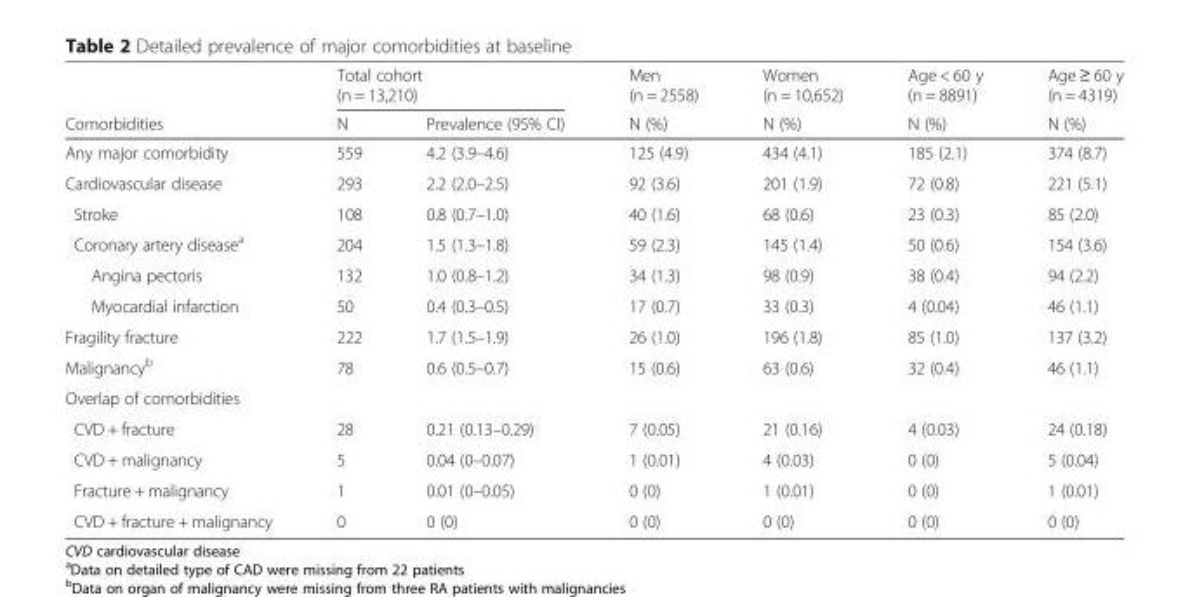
<table><thead><tr><td rowspan="2">Comorbidities</td><td colspan="2">Total cohort (n = 13,210)</td><td rowspan="2">Men (n = 2558) N (%)</td><td rowspan="2">Women (n = 10,652) N (%)</td><td rowspan="2">Age &lt; 60 y (n = 8891) N (%)</td><td rowspan="2">Age ≥ 60 y (n = 4319) N (%)</td></tr><tr><td>N</td><td>Prevalence (95% CI)</td></tr></thead><tbody><tr><td>Any major comorbidity</td><td>559</td><td>4.2 (3.9–4.6)</td><td>125 (4.9)</td><td>434 (4.1)</td><td>185 (2.1)</td><td>374 (8.7)</td></tr><tr><td>Cardiovascular disease</td><td>293</td><td>2.2 (2.0–2.5)</td><td>92 (3.6)</td><td>201 (1.9)</td><td>72 (0.8)</td><td>221 (5.1)</td></tr><tr><td>Stroke</td><td>108</td><td>0.8 (0.7–1.0)</td><td>40 (1.6)</td><td>68 (0.6)</td><td>23 (0.3)</td><td>85 (2.0)</td></tr><tr><td>Coronary artery disease<sup>a</sup></td><td>204</td><td>1.5 (1.3–1.8)</td><td>59 (2.3)</td><td>145 (1.4)</td><td>50 (0.6)</td><td>154 (3.6)</td></tr><tr><td>Angina pectoris</td><td>132</td><td>1.0 (0.8–1.2)</td><td>34 (1.3)</td><td>98 (0.9)</td><td>38 (0.4)</td><td>94 (2.2)</td></tr><tr><td>Myocardial infarction</td><td>50</td><td>0.4 (0.3–0.5)</td><td>17 (0.7)</td><td>33 (0.3)</td><td>4 (0.04)</td><td>46 (1.1)</td></tr><tr><td>Fragility fracture</td><td>222</td><td>1.7 (1.5–1.9)</td><td>26 (1.0)</td><td>196 (1.8)</td><td>85 (1.0)</td><td>137 (3.2)</td></tr><tr><td>Malignancy<sup>b</sup></td><td>78</td><td>0.6 (0.5–0.7)</td><td>15 (0.6)</td><td>63 (0.6)</td><td>32 (0.4)</td><td>46 (1.1)</td></tr><tr><td colspan="7">Overlap of comorbidities</td></tr><tr><td>CVD + fracture</td><td>28</td><td>0.21 (0.13–0.29)</td><td>7 (0.05)</td><td>21 (0.16)</td><td>4 (0.03)</td><td>24 (0.18)</td></tr><tr><td>CVD + malignancy</td><td>5</td><td>0.04 (0–0.07)</td><td>1 (0.01)</td><td>4 (0.03)</td><td>0 (0)</td><td>5 (0.04)</td></tr><tr><td>Fracture + malignancy</td><td>1</td><td>0.01 (0–0.05)</td><td>0 (0)</td><td>1 (0.01)</td><td>0 (0)</td><td>1 (0.01)</td></tr><tr><td>CVD + fracture + malignancy</td><td>0</td><td>0 (0)</td><td>0 (0)</td><td>0 (0)</td><td>0 (0)</td><td>0 (0)</td></tr></tbody></table>